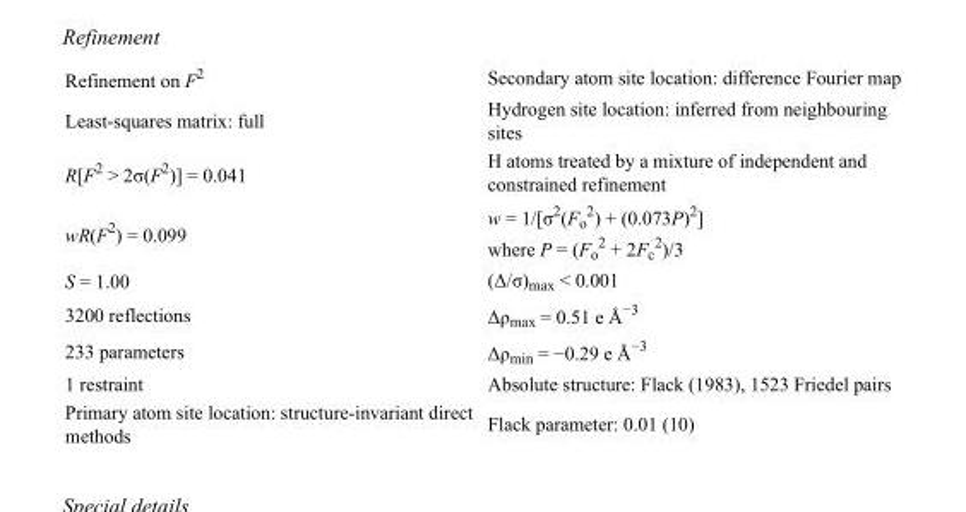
<table><tbody><tr><td>Refinement on F<sup>2</sup></td><td>Secondary atom site location: difference Fourier map</td></tr><tr><td>Least-squares matrix: full</td><td>Hydrogen site location: inferred from neighbouring sites</td></tr><tr><td>R[F<sup>2</sup> &gt; 2σ(F<sup>2</sup>)] = 0.041</td><td>H atoms treated by a mixture of independent and constrained refinement</td></tr><tr><td>wR(F<sup>2</sup>) = 0.099</td><td>w = 1/[σ<sup>2</sup>(F<sub>o</sub> <sup>2</sup>) + (0.073P)<sup>2</sup>] where P = (F<sub>o</sub> <sup>2</sup> + 2F<sub>c</sub> <sup>2</sup>)/3</td></tr><tr><td>S = 1.00</td><td>(Δ/σ)<sub>max</sub> &lt; 0.001</td></tr><tr><td>3200 reflections</td><td>Δρ<sub>max</sub> = 0.51 e Å<sup>−3</sup></td></tr><tr><td>233 parameters</td><td>Δρ<sub>min</sub> = −0.29 e Å<sup>−3</sup></td></tr><tr><td>1 restraint</td><td>Absolute structure: Flack (1983), 1523 Friedel pairs</td></tr><tr><td>Primary atom site location: structure-invariant direct methods</td><td>Flack parameter: 0.01 (10)</td></tr></tbody></table>